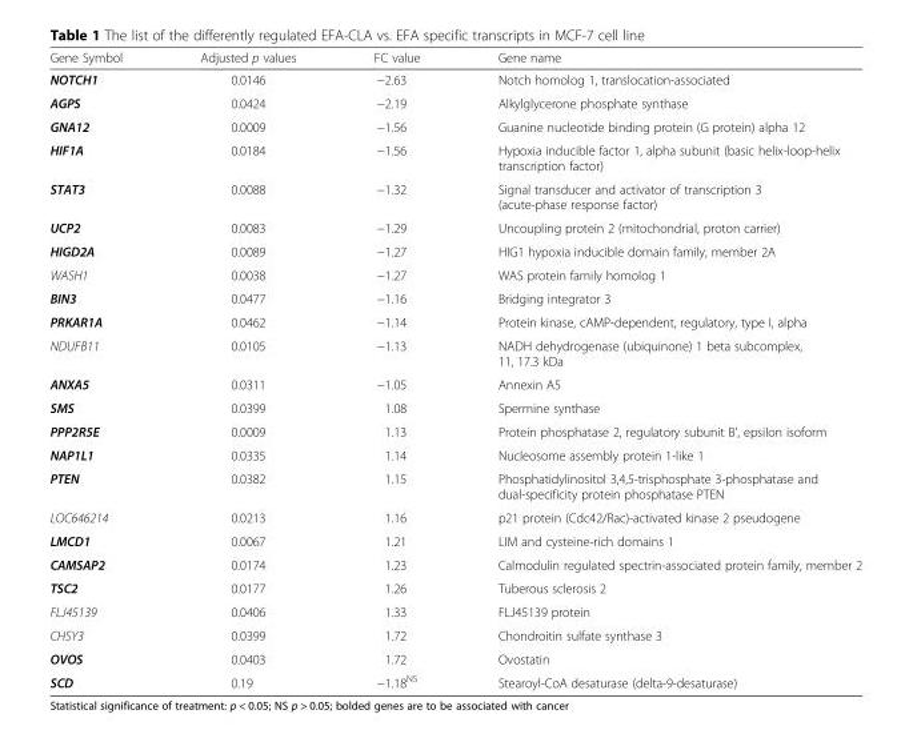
<table><thead><tr><td>Gene Symbol</td><td>Adjusted p values</td><td>FC value</td><td>Gene name</td></tr></thead><tbody><tr><td>NOTCH1</td><td>0.0146</td><td>−2.63</td><td>Notch homolog 1, translocation-associated</td></tr><tr><td>AGPS</td><td>0.0424</td><td>−2.19</td><td>Alkylglycerone phosphate synthase</td></tr><tr><td>GNA12</td><td>0.0009</td><td>−1.56</td><td>Guanine nucleotide binding protein (G protein) alpha 12</td></tr><tr><td>HIF1A</td><td>0.0184</td><td>−1.56</td><td>Hypoxia inducible factor 1, alpha subunit (basic helix-loop-helix transcription factor)</td></tr><tr><td>STAT3</td><td>0.0088</td><td>−1.32</td><td>Signal transducer and activator of transcription 3 (acute-phase response factor)</td></tr><tr><td>UCP2</td><td>0.0083</td><td>−1.29</td><td>Uncoupling protein 2 (mitochondrial, proton carrier)</td></tr><tr><td>HIGD2A</td><td>0.0089</td><td>−1.27</td><td>HIG1 hypoxia inducible domain family, member 2A</td></tr><tr><td>WASH1</td><td>0.0038</td><td>−1.27</td><td>WAS protein family homolog 1</td></tr><tr><td>BIN3</td><td>0.0477</td><td>−1.16</td><td>Bridging integrator 3</td></tr><tr><td>PRKAR1A</td><td>0.0462</td><td>−1.14</td><td>Protein kinase, cAMP-dependent, regulatory, type I, alpha</td></tr><tr><td>NDUFB11</td><td>0.0105</td><td>−1.13</td><td>NADH dehydrogenase (ubiquinone) 1 beta subcomplex, 11, 17.3 kDa</td></tr><tr><td>ANXA5</td><td>0.0311</td><td>−1.05</td><td>Annexin A5</td></tr><tr><td>SMS</td><td>0.0399</td><td>1.08</td><td>Spermine synthase</td></tr><tr><td>PPP2R5E</td><td>0.0009</td><td>1.13</td><td>Protein phosphatase 2, regulatory subunit B&#x27;, epsilon isoform</td></tr><tr><td>NAP1L1</td><td>0.0335</td><td>1.14</td><td>Nucleosome assembly protein 1-like 1</td></tr><tr><td>PTEN</td><td>0.0382</td><td>1.15</td><td>Phosphatidylinositol 3,4,5-trisphosphate 3-phosphatase and dual-specificity protein phosphatase PTEN</td></tr><tr><td>LOC646214</td><td>0.0213</td><td>1.16</td><td>p21 protein (Cdc42/Rac)-activated kinase 2 pseudogene</td></tr><tr><td>LMCD1</td><td>0.0067</td><td>1.21</td><td>LIM and cysteine-rich domains 1</td></tr><tr><td>CAMSAP2</td><td>0.0174</td><td>1.23</td><td>Calmodulin regulated spectrin-associated protein family, member 2</td></tr><tr><td>TSC2</td><td>0.0177</td><td>1.26</td><td>Tuberous sclerosis 2</td></tr><tr><td>FLJ45139</td><td>0.0406</td><td>1.33</td><td>FLJ45139 protein</td></tr><tr><td>CHSY3</td><td>0.0399</td><td>1.72</td><td>Chondroitin sulfate synthase 3</td></tr><tr><td>OVOS</td><td>0.0403</td><td>1.72</td><td>Ovostatin</td></tr><tr><td>SCD</td><td>0.19</td><td>−1.18<sup>NS</sup></td><td>Stearoyl-CoA desaturase (delta-9-desaturase)</td></tr></tbody></table>